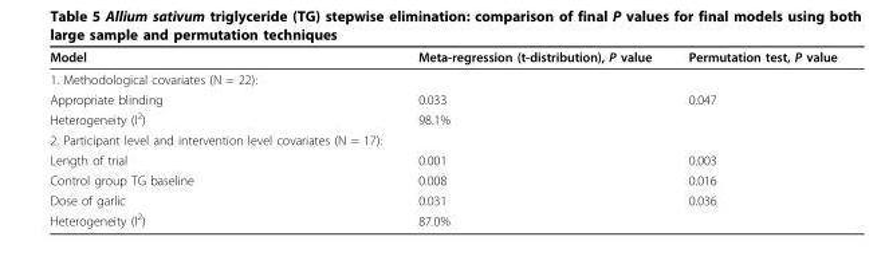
<table><thead><tr><td>Model</td><td>Meta-regression (t-distribution), P value</td><td>Permutation test, P value</td></tr></thead><tbody><tr><td colspan="3">1. Methodological covariates (N = 22):</td></tr><tr><td>Appropriate blinding</td><td>0.033</td><td>0.047</td></tr><tr><td>Heterogeneity (I<sup>2</sup>)</td><td>98.1%</td><td></td></tr><tr><td colspan="3">2. Participant level and intervention level covariates (N = 17):</td></tr><tr><td>Length of trial</td><td>0.001</td><td>0.003</td></tr><tr><td>Control group TG baseline</td><td>0.008</td><td>0.016</td></tr><tr><td>Dose of garlic</td><td>0.031</td><td>0.036</td></tr><tr><td>Heterogeneity (I<sup>2</sup>)</td><td>87.0%</td><td></td></tr></tbody></table>